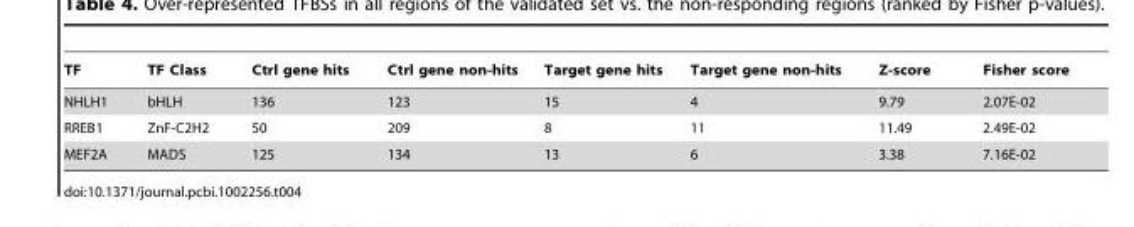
<table><thead><tr><td>TF</td><td>TF Class</td><td>Ctrl gene hits</td><td>Ctrl gene non-hits</td><td>Target gene hits</td><td>Target gene non-hits</td><td>Z-score</td><td>Fisher score</td></tr></thead><tbody><tr><td>NHLH1</td><td>bHLH</td><td>136</td><td>123</td><td>15</td><td>4</td><td>9.79</td><td>2.07E-02</td></tr><tr><td>RREB1</td><td>ZnF-C2H2</td><td>50</td><td>209</td><td>8</td><td>11</td><td>11.49</td><td>2.49E-02</td></tr><tr><td>MEF2A</td><td>MADS</td><td>125</td><td>134</td><td>13</td><td>6</td><td>3.38</td><td>7.16E-02</td></tr></tbody></table>